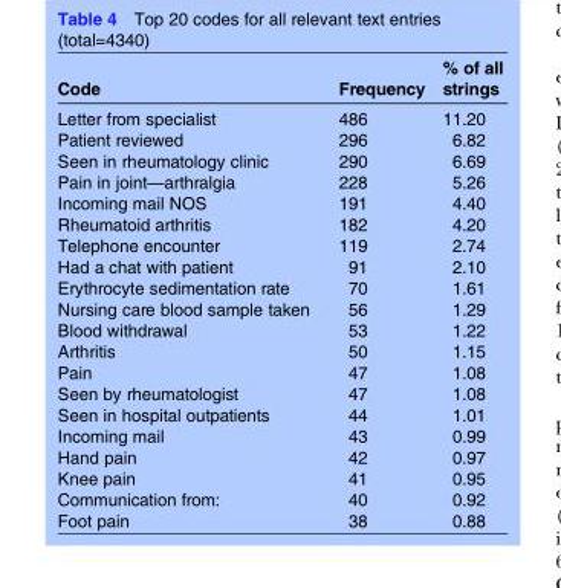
<table><thead><tr><td>Code</td><td>Frequency</td><td>% of all strings</td></tr></thead><tbody><tr><td>Letter from specialist</td><td>486</td><td>11.20</td></tr><tr><td>Patient reviewed</td><td>296</td><td>6.82</td></tr><tr><td>Seen in rheumatology clinic</td><td>290</td><td>6.69</td></tr><tr><td>Pain in joint—arthralgia</td><td>228</td><td>5.26</td></tr><tr><td>Incoming mail NOS</td><td>191</td><td>4.40</td></tr><tr><td>Rheumatoid arthritis</td><td>182</td><td>4.20</td></tr><tr><td>Telephone encounter</td><td>119</td><td>2.74</td></tr><tr><td>Had a chat with patient</td><td>91</td><td>2.10</td></tr><tr><td>Erythrocyte sedimentation rate</td><td>70</td><td>1.61</td></tr><tr><td>Nursing care blood sample taken</td><td>56</td><td>1.29</td></tr><tr><td>Blood withdrawal</td><td>53</td><td>1.22</td></tr><tr><td>Arthritis</td><td>50</td><td>1.15</td></tr><tr><td>Pain</td><td>47</td><td>1.08</td></tr><tr><td>Seen by rheumatologist</td><td>47</td><td>1.08</td></tr><tr><td>Seen in hospital outpatients</td><td>44</td><td>1.01</td></tr><tr><td>Incoming mail</td><td>43</td><td>0.99</td></tr><tr><td>Hand pain</td><td>42</td><td>0.97</td></tr><tr><td>Knee pain</td><td>41</td><td>0.95</td></tr><tr><td>Communication from:</td><td>40</td><td>0.92</td></tr><tr><td>Foot pain</td><td>38</td><td>0.88</td></tr></tbody></table>